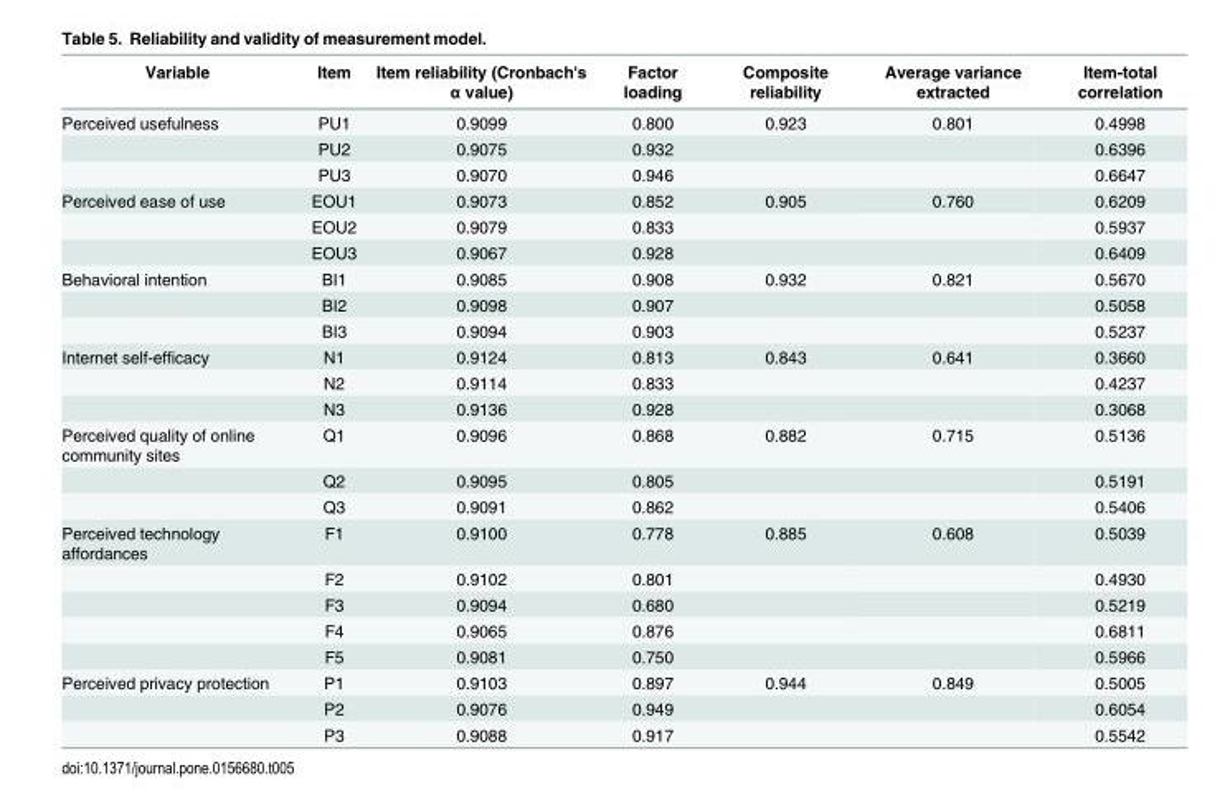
<table><thead><tr><td>Variable</td><td>Item</td><td>Item reliability (Cronbach&#x27;s α value)</td><td>Factor loading</td><td>Composite reliability</td><td>Average variance extracted</td><td>Item-total correlation</td></tr></thead><tbody><tr><td rowspan="3">Perceived usefulness</td><td>PU1</td><td>0.9099</td><td>0.800</td><td>0.923</td><td>0.801</td><td>0.4998</td></tr><tr><td>PU2</td><td>0.9075</td><td>0.932</td><td></td><td></td><td>0.6396</td></tr><tr><td>PU3</td><td>0.9070</td><td>0.946</td><td></td><td></td><td>0.6647</td></tr><tr><td rowspan="3">Perceived ease of use</td><td>EOU1</td><td>0.9073</td><td>0.852</td><td>0.905</td><td>0.760</td><td>0.6209</td></tr><tr><td>EOU2</td><td>0.9079</td><td>0.833</td><td></td><td></td><td>0.5937</td></tr><tr><td>EOU3</td><td>0.9067</td><td>0.928</td><td></td><td></td><td>0.6409</td></tr><tr><td rowspan="3">Behavioral intention</td><td>BI1</td><td>0.9085</td><td>0.908</td><td>0.932</td><td>0.821</td><td>0.5670</td></tr><tr><td>BI2</td><td>0.9098</td><td>0.907</td><td></td><td></td><td>0.5058</td></tr><tr><td>BI3</td><td>0.9094</td><td>0.903</td><td></td><td></td><td>0.5237</td></tr><tr><td rowspan="3">Internet self-efficacy</td><td>N1</td><td>0.9124</td><td>0.813</td><td>0.843</td><td>0.641</td><td>0.3660</td></tr><tr><td>N2</td><td>0.9114</td><td>0.833</td><td></td><td></td><td>0.4237</td></tr><tr><td>N3</td><td>0.9136</td><td>0.928</td><td></td><td></td><td>0.3068</td></tr><tr><td rowspan="3">Perceived quality of online community sites</td><td>Q1</td><td>0.9096</td><td>0.868</td><td>0.882</td><td>0.715</td><td>0.5136</td></tr><tr><td>Q2</td><td>0.9095</td><td>0.805</td><td></td><td></td><td>0.5191</td></tr><tr><td>Q3</td><td>0.9091</td><td>0.862</td><td></td><td></td><td>0.5406</td></tr><tr><td rowspan="5">Perceived technology affordances</td><td>F1</td><td>0.9100</td><td>0.778</td><td>0.885</td><td>0.608</td><td>0.5039</td></tr><tr><td>F2</td><td>0.9102</td><td>0.801</td><td></td><td></td><td>0.4930</td></tr><tr><td>F3</td><td>0.9094</td><td>0.680</td><td></td><td></td><td>0.5219</td></tr><tr><td>F4</td><td>0.9065</td><td>0.876</td><td></td><td></td><td>0.6811</td></tr><tr><td>F5</td><td>0.9081</td><td>0.750</td><td></td><td></td><td>0.5966</td></tr><tr><td rowspan="3">Perceived privacy protection</td><td>P1</td><td>0.9103</td><td>0.897</td><td>0.944</td><td>0.849</td><td>0.5005</td></tr><tr><td>P2</td><td>0.9076</td><td>0.949</td><td></td><td></td><td>0.6054</td></tr><tr><td>P3</td><td>0.9088</td><td>0.917</td><td></td><td></td><td>0.5542</td></tr></tbody></table>